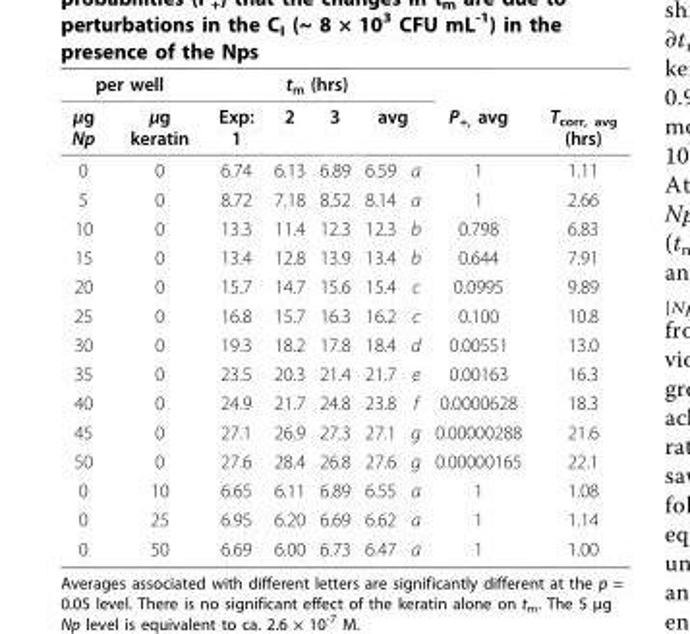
<table><tbody><tr><td colspan="2">per well</td><td colspan="5">t<sub>m</sub> (hrs)</td><td></td><td></td></tr><tr><td>μg Np</td><td>μg keratin</td><td>Exp: 1</td><td>2</td><td>3</td><td colspan="2">avg</td><td>P<sub>+,</sub> avg</td><td>T<sub>corr, avg</sub> (hrs)</td></tr><tr><td>0</td><td>0</td><td>6.74</td><td>6.13</td><td>6.89</td><td>6.59</td><td>a</td><td>1</td><td>1.11</td></tr><tr><td>5</td><td>0</td><td>8.72</td><td>7.18</td><td>8.52</td><td>8.14</td><td>a</td><td>1</td><td>2.66</td></tr><tr><td>10</td><td>0</td><td>13.3</td><td>11.4</td><td>12.3</td><td>12.3</td><td>b</td><td>0.798</td><td>6.83</td></tr><tr><td>15</td><td>0</td><td>13.4</td><td>12.8</td><td>13.9</td><td>13.4</td><td>b</td><td>0.644</td><td>7.91</td></tr><tr><td>20</td><td>0</td><td>15.7</td><td>14.7</td><td>15.6</td><td>15.4</td><td>c</td><td>0.0995</td><td>9.89</td></tr><tr><td>25</td><td>0</td><td>16.8</td><td>15.7</td><td>16.3</td><td>16.2</td><td>c</td><td>0.100</td><td>10.8</td></tr><tr><td>30</td><td>0</td><td>19.3</td><td>18.2</td><td>17.8</td><td>18.4</td><td>d</td><td>0.00551</td><td>13.0</td></tr><tr><td>35</td><td>0</td><td>23.5</td><td>20.3</td><td>21.4</td><td>21.7</td><td>e</td><td>0.00163</td><td>16.3</td></tr><tr><td>40</td><td>0</td><td>24.9</td><td>21.7</td><td>24.8</td><td>23.8</td><td>f</td><td>0.0000628</td><td>18.3</td></tr><tr><td>45</td><td>0</td><td>27.1</td><td>26.9</td><td>27.3</td><td>27.1</td><td>g</td><td>0.00000288</td><td>21.6</td></tr><tr><td>50</td><td>0</td><td>27.6</td><td>28.4</td><td>26.8</td><td>27.6</td><td>g</td><td>0.00000165</td><td>22.1</td></tr><tr><td>0</td><td>10</td><td>6.65</td><td>6.11</td><td>6.89</td><td>6.55</td><td>a</td><td>1</td><td>1.08</td></tr><tr><td>0</td><td>25</td><td>6.95</td><td>6.20</td><td>6.69</td><td>6.62</td><td>a</td><td>1</td><td>1.14</td></tr><tr><td>0</td><td>50</td><td>6.69</td><td>6.00</td><td>6.73</td><td>6.47</td><td>a</td><td>1</td><td>1.00</td></tr></tbody></table>